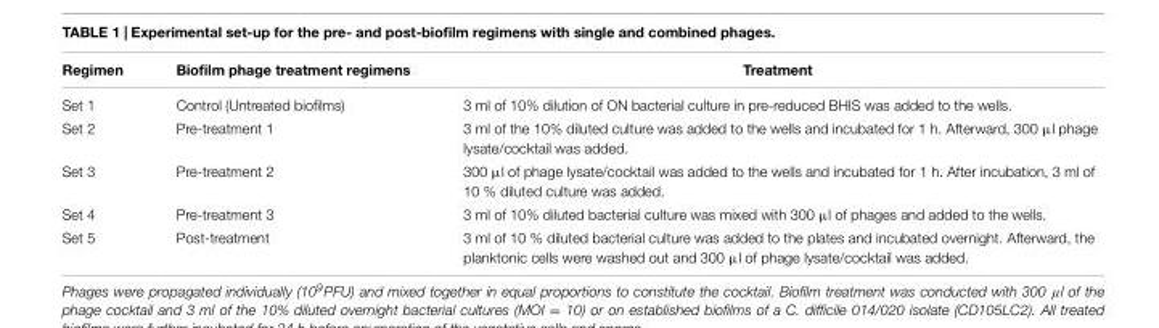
<table><thead><tr><td>Regimen</td><td>Biofilm phage treatment regimens</td><td>Treatment</td></tr></thead><tbody><tr><td>Set 1</td><td>Control (Untreated biofilms)</td><td>3 ml of 10% dilution of ON bacterial culture in pre-reduced BHIS was added to the wells.</td></tr><tr><td>Set 2</td><td>Pre-treatment 1</td><td>3 ml of the 10% diluted culture was added to the wells and incubated for 1 h. Afterward, 300 µl phage lysate/cocktail was added.</td></tr><tr><td>Set 3</td><td>Pre-treatment 2</td><td>300 µl of phage lysate/cocktail was added to the wells and incubated for 1 h. After incubation, 3 ml of 10 % diluted culture was added.</td></tr><tr><td>Set 4</td><td>Pre-treatment 3</td><td>3 ml of 10% diluted bacterial culture was mixed with 300 µl of phages and added to the wells.</td></tr><tr><td>Set 5</td><td>Post-treatment</td><td>3 ml of 10 % diluted bacterial culture was added to the plates and incubated overnight. Afterward, the planktonic cells were washed out and 300 µl of phage lysate/cocktail was added.</td></tr></tbody></table>